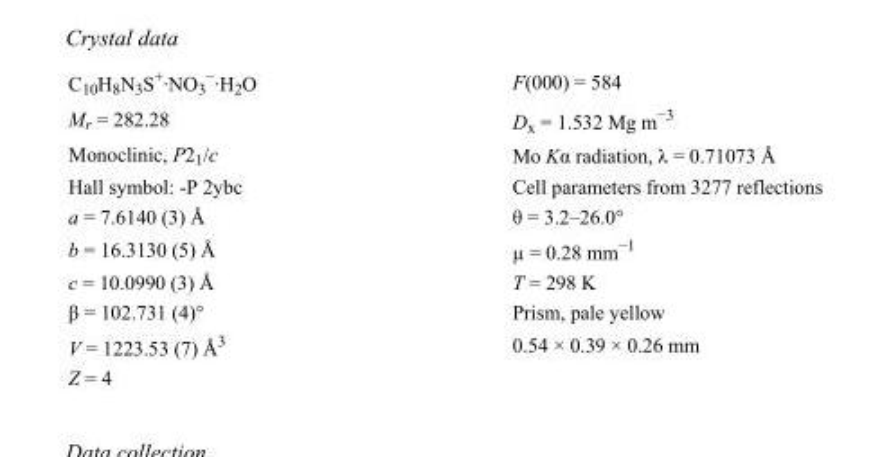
<table><tbody><tr><td>C<sub>10</sub>H<sub>8</sub>N<sub>3</sub>S<sup>+</sup>·NO<sub>3</sub> <sup>−</sup>·H<sub>2</sub>O</td><td>F(000) = 584</td></tr><tr><td>M<sub>r</sub> = 282.28</td><td>D<sub>x</sub> = 1.532 Mg m<sup>−3</sup></td></tr><tr><td>Monoclinic, P2<sub>1</sub>/c</td><td>Mo Kα radiation, λ = 0.71073 Å</td></tr><tr><td>Hall symbol: -P 2ybc</td><td>Cell parameters from 3277 reflections</td></tr><tr><td>a = 7.6140 (3) Å</td><td>θ = 3.2–26.0°</td></tr><tr><td>b = 16.3130 (5) Å</td><td>µ = 0.28 mm<sup>−1</sup></td></tr><tr><td>c = 10.0990 (3) Å</td><td>T = 298 K</td></tr><tr><td>β = 102.731 (4)°</td><td>Prism, pale yellow</td></tr><tr><td>V = 1223.53 (7) Å<sup>3</sup></td><td>0.54 × 0.39 × 0.26 mm</td></tr><tr><td>Z = 4</td><td></td></tr></tbody></table>